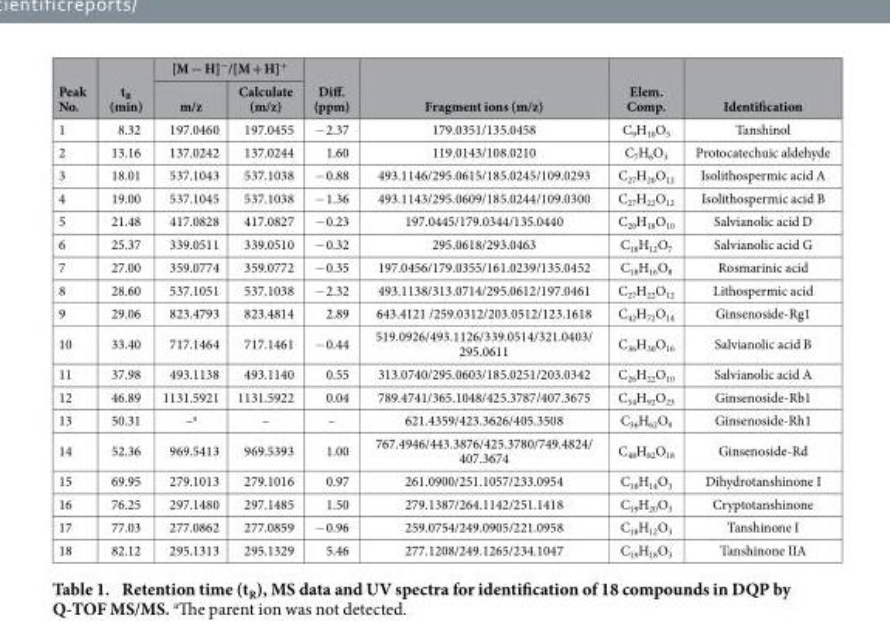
<table><thead><tr><td rowspan="2">Peak No.</td><td rowspan="2">t<sub>R</sub> (min)</td><td colspan="2">[M − H]<sup>−</sup>/[M + H]<sup>+</sup></td><td rowspan="2">Diff. (ppm)</td><td rowspan="2">Fragment ions (m/z)</td><td rowspan="2">Elem. Comp.</td><td rowspan="2">Identification</td></tr><tr><td>m/z</td><td>Calculate (m/z)</td></tr></thead><tbody><tr><td>1</td><td>8.32</td><td>197.0460</td><td>197.0455</td><td>− 2.37</td><td>179.0351/135.0458</td><td>C<sub>9</sub>H<sub>10</sub>O<sub>5</sub></td><td>Tanshinol</td></tr><tr><td>2</td><td>13.16</td><td>137.0242</td><td>137.0244</td><td>1.60</td><td>119.0143/108.0210</td><td>C<sub>7</sub>H<sub>6</sub>O<sub>3</sub></td><td>Protocatechuic aldehyde</td></tr><tr><td>3</td><td>18.01</td><td>537.1043</td><td>537.1038</td><td>− 0.88</td><td>493.1146/295.0615/185.0245/109.0293</td><td>C<sub>27</sub>H<sub>20</sub>O<sub>12</sub></td><td>Isolithospermic acid A</td></tr><tr><td>4</td><td>19.00</td><td>537.1045</td><td>537.1038</td><td>− 1.36</td><td>493.1143/295.0609/185.0244/109.0300</td><td>C<sub>27</sub>H<sub>22</sub>O<sub>12</sub></td><td>Isolithospermic acid B</td></tr><tr><td>5</td><td>21.48</td><td>417.0828</td><td>417.0827</td><td>− 0.23</td><td>197.0445/179.0344/135.0440</td><td>C<sub>20</sub>H<sub>18</sub>O<sub>10</sub></td><td>Salvianolic acid D</td></tr><tr><td>6</td><td>25.37</td><td>339.0511</td><td>339.0510</td><td>− 0.32</td><td>295.0618/293.0463</td><td>C<sub>18</sub>H<sub>12</sub>O<sub>7</sub></td><td>Salvianolic acid G</td></tr><tr><td>7</td><td>27.00</td><td>359.0774</td><td>359.0772</td><td>− 0.35</td><td>197.0456/179.0355/161.0239/135.0452</td><td>C<sub>18</sub>H<sub>16</sub>O<sub>8</sub></td><td>Rosmarinic acid</td></tr><tr><td>8</td><td>28.60</td><td>537.1051</td><td>537.1038</td><td>− 2.32</td><td>493.1138/313.0714/295.0612/197.0461</td><td>C<sub>27</sub>H<sub>22</sub>O<sub>12</sub></td><td>Lithospermic acid</td></tr><tr><td>9</td><td>29.06</td><td>823.4793</td><td>823.4814</td><td>2.89</td><td>643.4121 /259.0312/203.0512/123.1618</td><td>C<sub>42</sub>H<sub>72</sub>O<sub>14</sub></td><td>Ginsenoside-Rg1</td></tr><tr><td>10</td><td>33.40</td><td>717.1464</td><td>717.1461</td><td>− 0.44</td><td>519.0926/493.1126/339.0514/321.0403/ 295.0611</td><td>C<sub>36</sub>H<sub>30</sub>O<sub>16</sub></td><td>Salvianolic acid B</td></tr><tr><td>11</td><td>37.98</td><td>493.1138</td><td>493.1140</td><td>0.55</td><td>313.0740/295.0603/185.0251/203.0342</td><td>C<sub>26</sub>H<sub>22</sub>O<sub>10</sub></td><td>Salvianolic acid A</td></tr><tr><td>12</td><td>46.89</td><td>1131.5921</td><td>1131.5922</td><td>0.04</td><td>789.4741/365.1048/425.3787/407.3675</td><td>C<sub>54</sub>H<sub>92</sub>O<sub>23</sub></td><td>Ginsenoside-Rb1</td></tr><tr><td>13</td><td>50.31</td><td>–a</td><td>–</td><td>–</td><td>621.4359/423.3626/405.3508</td><td>C<sub>36</sub>H<sub>62</sub>O<sub>9</sub></td><td>Ginsenoside-Rh1</td></tr><tr><td>14</td><td>52.36</td><td>969.5413</td><td>969.5393</td><td>1.00</td><td>767.4946/443.3876/425.3780/749.4824/ 407.3674</td><td>C<sub>48</sub>H<sub>82</sub>O<sub>18</sub></td><td>Ginsenoside-Rd</td></tr><tr><td>15</td><td>69.95</td><td>279.1013</td><td>279.1016</td><td>0.97</td><td>261.0900/251.1057/233.0954</td><td>C<sub>18</sub>H<sub>14</sub>O<sub>3</sub></td><td>Dihydrotanshinone I</td></tr><tr><td>16</td><td>76.25</td><td>297.1480</td><td>297.1485</td><td>1.50</td><td>279.1387/264.1142/251.1418</td><td>C<sub>19</sub>H<sub>20</sub>O<sub>3</sub></td><td>Cryptotanshinone</td></tr><tr><td>17</td><td>77.03</td><td>277.0862</td><td>277.0859</td><td>− 0.96</td><td>259.0754/249.0905/221.0958</td><td>C<sub>18</sub>H<sub>12</sub>O<sub>3</sub></td><td>Tanshinone I</td></tr><tr><td>18</td><td>82.12</td><td>295.1313</td><td>295.1329</td><td>5.46</td><td>277.1208/249.1265/234.1047</td><td>C<sub>19</sub>H<sub>18</sub>O<sub>3</sub></td><td>Tanshinone IIA</td></tr></tbody></table>